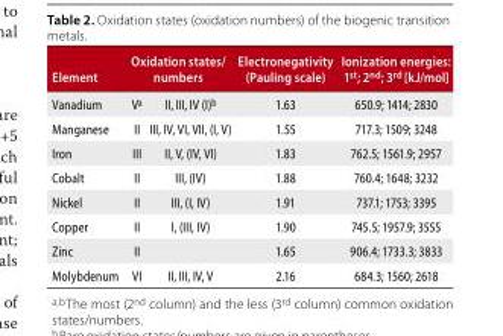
<table><thead><tr><td rowspan="2">Element Vanadium</td><td colspan="2">Oxidation states/ numbers</td><td rowspan="2">Electronegativity (Pauling scale) 1.63</td><td rowspan="2">Ionization energies: 1<sup>st</sup>; 2<sup>nd</sup>; 3<sup>rd</sup> [kJ/mol] 650.9; 1414; 2830</td></tr><tr><td>V<sup>a</sup></td><td>II, III, IV (I)<sup>b</sup></td></tr></thead><tbody><tr><td>Manganese</td><td>II</td><td>III, IV, VI, VII, (I, V)</td><td>1.55</td><td>717.3; 1509; 3248</td></tr><tr><td>Iron</td><td>III</td><td>II, V, (IV, VI)</td><td>1.83</td><td>762.5; 1561.9; 2957</td></tr><tr><td>Cobalt</td><td>II</td><td>III, (IV)</td><td>1.88</td><td>760.4; 1648; 3232</td></tr><tr><td>Nickel</td><td>II</td><td>III, (I, IV)</td><td>1.91</td><td>737.1; 1753; 3395</td></tr><tr><td>Copper</td><td>II</td><td>I, (III, IV)</td><td>1.90</td><td>745.5; 1957.9; 3555</td></tr><tr><td>Zinc</td><td>II</td><td></td><td>1.65</td><td>906.4; 1733.3; 3833</td></tr><tr><td>Molybdenum</td><td>VI</td><td>II, III, IV, V</td><td>2.16</td><td>684.3; 1560; 2618</td></tr></tbody></table>